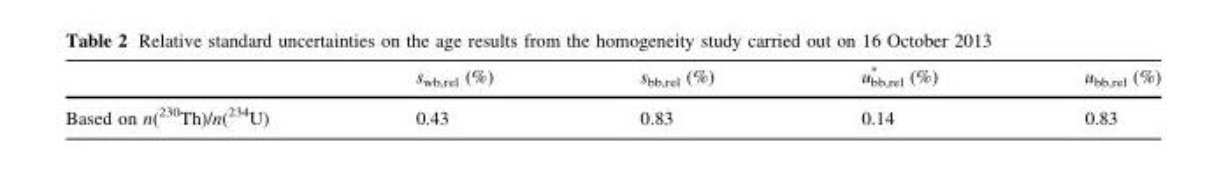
<table><thead><tr><td></td><td>s<sub>wb,rel</sub> (%)</td><td>s<sub>bb,rel</sub> (%)</td><td>u<sub>bb,rel</sub> * (%)</td><td>u<sub>bb,rel</sub> (%)</td></tr></thead><tbody><tr><td>Based on n(<sup>230</sup>Th)/n(<sup>234</sup>U)</td><td>0.43</td><td>0.83</td><td>0.14</td><td>0.83</td></tr></tbody></table>